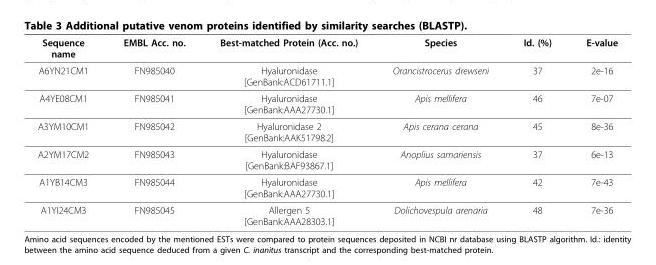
<table><thead><tr><td>Sequence name</td><td>EMBL Acc. no.</td><td>Best-matched Protein (Acc. no.)</td><td>Species</td><td>Id. (%)</td><td>E-value</td></tr></thead><tbody><tr><td>A6YN21CM1</td><td>FN985040</td><td>Hyaluronidase [GenBank:ACD61711.1]</td><td>Orancistrocerus drewseni</td><td>37</td><td>2e-16</td></tr><tr><td>A4YE08CM1</td><td>FN985041</td><td>Hyaluronidase [GenBank:AAA27730.1]</td><td>Apis mellifera</td><td>46</td><td>7e-07</td></tr><tr><td>A3YM10CM1</td><td>FN985042</td><td>Hyaluronidase 2 [GenBank:AAK51798.2]</td><td>Apis cerana cerana</td><td>45</td><td>8e-36</td></tr><tr><td>A2YM17CM2</td><td>FN985043</td><td>Hyaluronidase [GenBank:BAF93867.1]</td><td>Anoplius samariensis</td><td>37</td><td>6e-13</td></tr><tr><td>A1YB14CM3</td><td>FN985044</td><td>Hyaluronidase [GenBank:AAA27730.1]</td><td>Apis mellifera</td><td>42</td><td>7e-43</td></tr><tr><td>A1YI24CM3</td><td>FN985045</td><td>Allergen 5 [GenBank:AAA28303.1]</td><td>Dolichovespula arenaria</td><td>48</td><td>7e-36</td></tr></tbody></table>